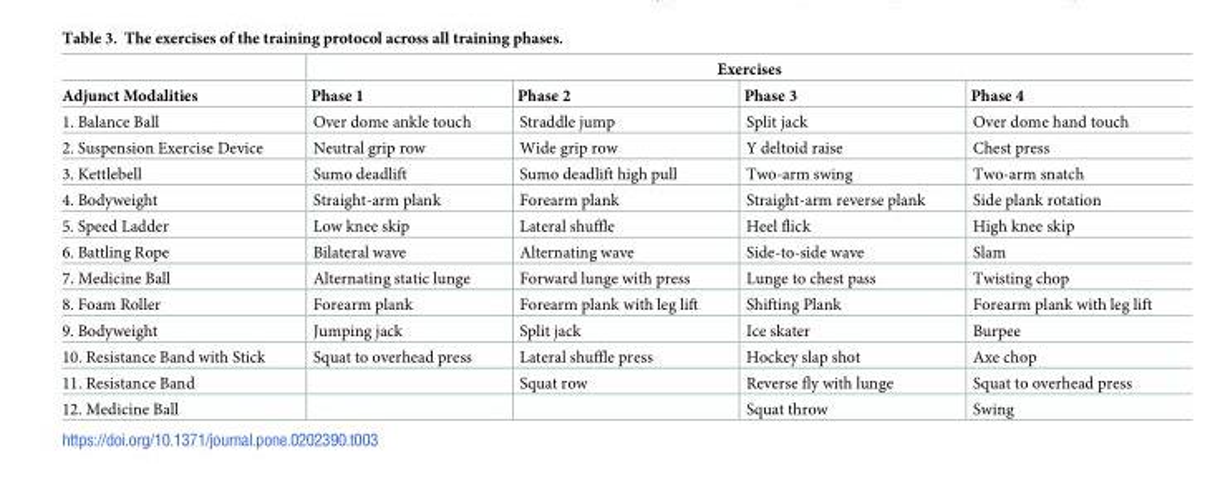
<table><thead><tr><td rowspan="2">Adjunct Modalities</td><td colspan="4">Exercises</td></tr><tr><td>Phase 1</td><td>Phase 2</td><td>Phase 3</td><td>Phase 4</td></tr></thead><tbody><tr><td>1. Balance Ball</td><td>Over dome ankle touch</td><td>Straddle jump</td><td>Split jack</td><td>Over dome hand touch</td></tr><tr><td>2. Suspension Exercise Device</td><td>Neutral grip row</td><td>Wide grip row</td><td>Y deltoid raise</td><td>Chest press</td></tr><tr><td>3. Kettlebell</td><td>Sumo deadlift</td><td>Sumo deadlift high pull</td><td>Two-arm swing</td><td>Two-arm snatch</td></tr><tr><td>4. Bodyweight</td><td>Straight-arm plank</td><td>Forearm plank</td><td>Straight-arm reverse plank</td><td>Side plank rotation</td></tr><tr><td>5. Speed Ladder</td><td>Low knee skip</td><td>Lateral shuffle</td><td>Heel flick</td><td>High knee skip</td></tr><tr><td>6. Battling Rope</td><td>Bilateral wave</td><td>Alternating wave</td><td>Side-to-side wave</td><td>Slam</td></tr><tr><td>7. Medicine Ball</td><td>Alternating static lunge</td><td>Forward lunge with press</td><td>Lunge to chest pass</td><td>Twisting chop</td></tr><tr><td>8. Foam Roller</td><td>Forearm plank</td><td>Forearm plank with leg lift</td><td>Shifting Plank</td><td>Forearm plank with leg lift</td></tr><tr><td>9. Bodyweight</td><td>Jumping jack</td><td>Split jack</td><td>Ice skater</td><td>Burpee</td></tr><tr><td>10. Resistance Band with Stick</td><td>Squat to overhead press</td><td>Lateral shuffle press</td><td>Hockey slap shot</td><td>Axe chop</td></tr><tr><td>11. Resistance Band</td><td></td><td>Squat row</td><td>Reverse fly with lunge</td><td>Squat to overhead press</td></tr><tr><td>12. Medicine Ball</td><td></td><td></td><td>Squat throw</td><td>Swing</td></tr></tbody></table>